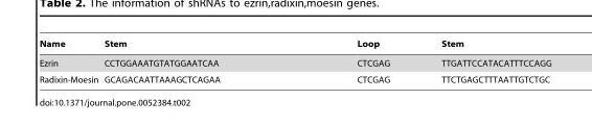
<table><thead><tr><td>Name</td><td>Stem</td><td>Loop</td><td>Stem</td></tr></thead><tbody><tr><td>Ezrin</td><td>CCTGGAAATGTATGGAATCAA</td><td>CTCGAG</td><td>TTGATTCCATACATTTCCAGG</td></tr><tr><td>Radixin-Moesin</td><td>GCAGACAATTAAAGCTCAGAA</td><td>CTCGAG</td><td>TTCTGAGCTTTAATTGTCTGC</td></tr></tbody></table>